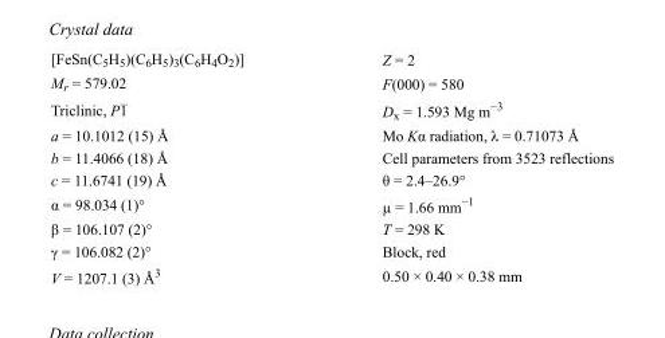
<table><tbody><tr><td>[FeSn(C<sub>5</sub>H<sub>5</sub>)(C<sub>6</sub>H<sub>5</sub>)<sub>3</sub>(C<sub>6</sub>H<sub>4</sub>O<sub>2</sub>)]</td><td>Z = 2</td></tr><tr><td>M<sub>r</sub> = 579.02</td><td>F(000) = 580</td></tr><tr><td>Triclinic, P1</td><td>D<sub>x</sub> = 1.593 Mg m<sup>−3</sup></td></tr><tr><td>a = 10.1012 (15) Å</td><td>Mo Kα radiation, λ = 0.71073 Å</td></tr><tr><td>b = 11.4066 (18) Å</td><td>Cell parameters from 3523 reflections</td></tr><tr><td>c = 11.6741 (19) Å</td><td>θ = 2.4–26.9°</td></tr><tr><td>α = 98.034 (1)°</td><td>µ = 1.66 mm<sup>−1</sup></td></tr><tr><td>β = 106.107 (2)°</td><td>T = 298 K</td></tr><tr><td>γ = 106.082 (2)°</td><td>Block, red</td></tr><tr><td>V = 1207.1 (3) Å<sup>3</sup></td><td>0.50 × 0.40 × 0.38 mm</td></tr></tbody></table>